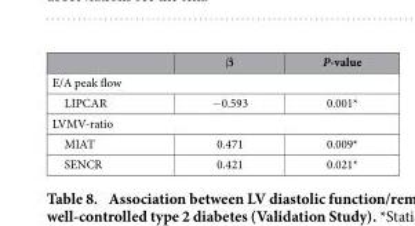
<table><thead><tr><td></td><td>β</td><td>P-value</td></tr></thead><tbody><tr><td colspan="3">E/A peak flow</td></tr><tr><td>LIPCAR</td><td>− 0.593</td><td>0.001*</td></tr><tr><td colspan="3">LVMV-ratio</td></tr><tr><td>MIAT</td><td>0.471</td><td>0.009*</td></tr><tr><td>SENCR</td><td>0.421</td><td>0.021*</td></tr></tbody></table>